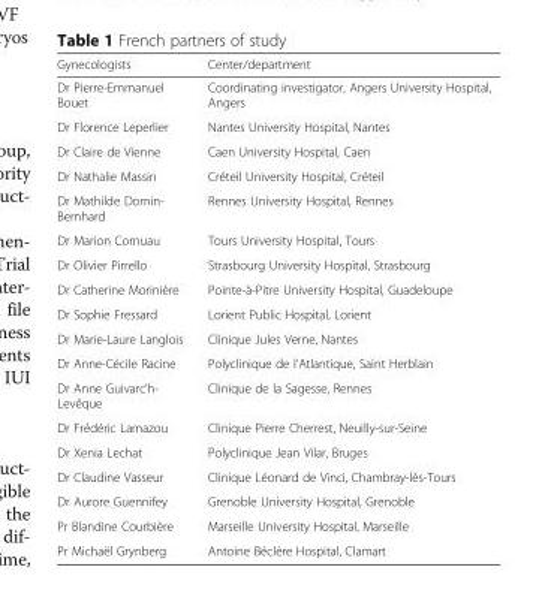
<table><thead><tr><td>Gynecologists</td><td>Center/department</td></tr></thead><tbody><tr><td>Dr Pierre-Emmanuel Bouet</td><td>Coordinating investigator, Angers University Hospital, Angers</td></tr><tr><td>Dr Florence Leperlier</td><td>Nantes University Hospital, Nantes</td></tr><tr><td>Dr Claire de Vienne</td><td>Caen University Hospital, Caen</td></tr><tr><td>Dr Nathalie Massin</td><td>Créteil University Hospital, Créteil</td></tr><tr><td>Dr Mathilde Domin- Bernhard</td><td>Rennes University Hospital, Rennes</td></tr><tr><td>Dr Marion Cornuau</td><td>Tours University Hospital, Tours</td></tr><tr><td>Dr Olivier Pirrello</td><td>Strasbourg University Hospital, Strasbourg</td></tr><tr><td>Dr Catherine Morinière</td><td>Pointe-à-Pitre University Hospital, Guadeloupe</td></tr><tr><td>Dr Sophie Fressard</td><td>Lorient Public Hospital, Lorient</td></tr><tr><td>Dr Marie-Laure Langlois</td><td>Clinique Jules Verne, Nantes</td></tr><tr><td>Dr Anne-Cécile Racine</td><td>Polyclinique de l’Atlantique, Saint Herblain</td></tr><tr><td>Dr Anne Guivarc’h- Levêque</td><td>Clinique de la Sagesse, Rennes</td></tr><tr><td>Dr Frédéric Lamazou</td><td>Clinique Pierre Cherrest, Neuilly-sur-Seine</td></tr><tr><td>Dr Xenia Lechat</td><td>Polyclinique Jean Vilar, Bruges</td></tr><tr><td>Dr Claudine Vasseur</td><td>Clinique Léonard de Vinci, Chambray-lès-Tours</td></tr><tr><td>Dr Aurore Guennifey</td><td>Grenoble University Hospital, Grenoble</td></tr><tr><td>Pr Blandine Courbière</td><td>Marseille University Hospital, Marseille</td></tr><tr><td>Pr Michaël Grynberg</td><td>Antoine Béclère Hospital, Clamart</td></tr></tbody></table>